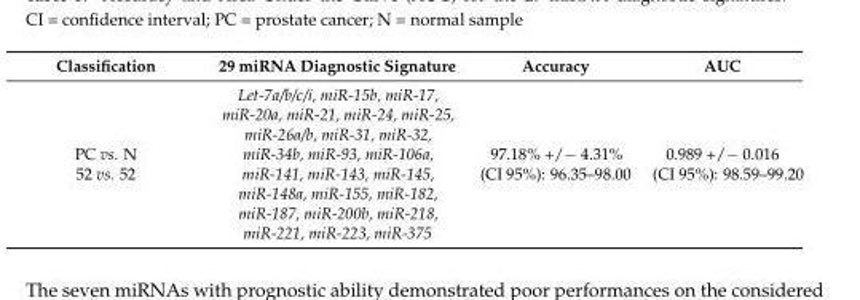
<table><thead><tr><td>Classification</td><td>29 miRNA Diagnostic Signature</td><td>Accuracy</td><td>AUC</td></tr></thead><tbody><tr><td>PC vs. N 52 vs. 52</td><td>Let-7a/b/c/i, miR-15b, miR-17, miR-20a, miR-21, miR-24, miR-25, miR-26a/b, miR-31, miR-32, miR-34b, miR-93, miR-106a, miR-141, miR-143, miR-145, miR-148a, miR-155, miR-182, miR-187, miR-200b, miR-218, miR-221, miR-223, miR-375</td><td>97.18% +/− 4.31% (CI 95%): 96.35–98.00</td><td>0.989 +/− 0.016 (CI 95%): 98.59–99.20</td></tr></tbody></table>